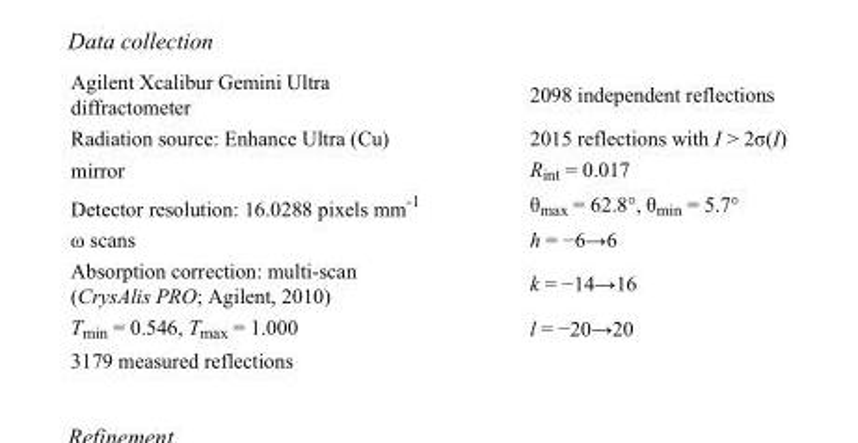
<table><tbody><tr><td>Agilent Xcalibur Gemini Ultra diffractometer</td><td>2098 independent reflections</td></tr><tr><td>Radiation source: Enhance Ultra (Cu)</td><td>2015 reflections with I &gt; 2σ(I)</td></tr><tr><td>mirror</td><td>R<sub>int</sub> = 0.017</td></tr><tr><td>Detector resolution: 16.0288 pixels mm<sup>-1</sup></td><td>θ<sub>max</sub> = 62.8°, θ<sub>min</sub> = 5.7°</td></tr><tr><td>ω scans</td><td>h = −6→6</td></tr><tr><td>Absorption correction: multi-scan (CrysAlis PRO; Agilent, 2010)</td><td>k = −14→16</td></tr><tr><td>T<sub>min</sub> = 0.546, T<sub>max</sub> = 1.000</td><td>l = −20→20</td></tr><tr><td>3179 measured reflections</td><td></td></tr></tbody></table>